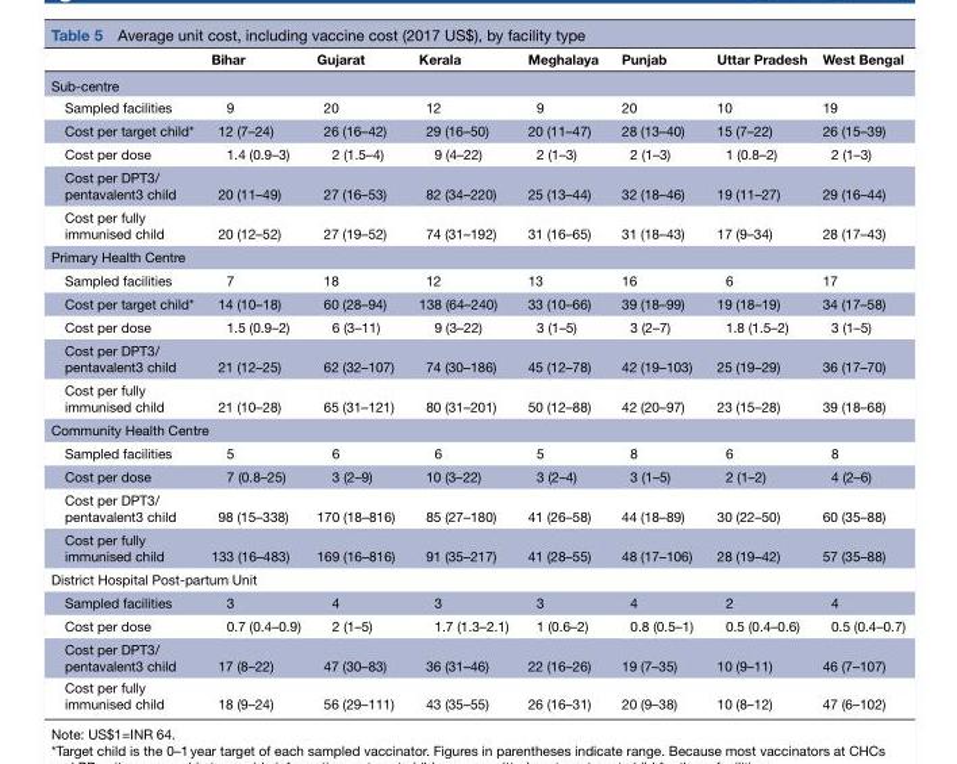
<table><thead><tr><td></td><td>Bihar</td><td>Gujarat</td><td>Kerala</td><td>Meghalaya</td><td>Punjab</td><td>Uttar Pradesh</td><td>West Bengal</td></tr></thead><tbody><tr><td colspan="8">Sub-centre</td></tr><tr><td>Sampled facilities</td><td>9</td><td>20</td><td>12</td><td>9</td><td>20</td><td>10</td><td>19</td></tr><tr><td>Cost per target child*</td><td>12 (7–24)</td><td>26 (16–42)</td><td>29 (16–50)</td><td>20 (11–47)</td><td>28 (13–40)</td><td>15 (7–22)</td><td>26 (15–39)</td></tr><tr><td>Cost per dose</td><td>1.4 (0.9–3)</td><td>2 (1.5–4)</td><td>9 (4–22)</td><td>2 (1–3)</td><td>2 (1–3)</td><td>1 (0.8–2)</td><td>2 (1–3)</td></tr><tr><td>Cost per DPT3/ pentavalent3 child</td><td>20 (11–49)</td><td>27 (16–53)</td><td>82 (34–220)</td><td>25 (13–44)</td><td>32 (18–46)</td><td>19 (11–27)</td><td>29 (16–44)</td></tr><tr><td>Cost per fully immunised child</td><td>20 (12–52)</td><td>27 (19–52)</td><td>74 (31–192)</td><td>31 (16–65)</td><td>31 (18–43)</td><td>17 (9–34)</td><td>28 (17–43)</td></tr><tr><td colspan="8">Primary Health Centre</td></tr><tr><td>Sampled facilities</td><td>7</td><td>18</td><td>12</td><td>13</td><td>16</td><td>6</td><td>17</td></tr><tr><td>Cost per target child*</td><td>14 (10–18)</td><td>60 (28–94)</td><td>138 (64–240)</td><td>33 (10–66)</td><td>39 (18–99)</td><td>19 (18–19)</td><td>34 (17–58)</td></tr><tr><td>Cost per dose</td><td>1.5 (0.9–2)</td><td>6 (3–11)</td><td>9 (3–22)</td><td>3 (1–5)</td><td>3 (2–7)</td><td>1.8 (1.5–2)</td><td>3 (1–5)</td></tr><tr><td>Cost per DPT3/ pentavalent3 child</td><td>21 (12–25)</td><td>62 (32–107)</td><td>74 (30–186)</td><td>45 (12–78)</td><td>42 (19–103)</td><td>25 (19–29)</td><td>36 (17–70)</td></tr><tr><td>Cost per fully immunised child</td><td>21 (10–28)</td><td>65 (31–121)</td><td>80 (31–201)</td><td>50 (12–88)</td><td>42 (20–97)</td><td>23 (15–28)</td><td>39 (18–68)</td></tr><tr><td colspan="8">Community Health Centre</td></tr><tr><td>Sampled facilities</td><td>5</td><td>6</td><td>6</td><td>5</td><td>8</td><td>6</td><td>8</td></tr><tr><td>Cost per dose</td><td>7 (0.8–25)</td><td>3 (2–9)</td><td>10 (3–22)</td><td>3 (2–4)</td><td>3 (1–5)</td><td>2 (1–2)</td><td>4 (2–6)</td></tr><tr><td>Cost per DPT3/ pentavalent3 child</td><td>98 (15–338)</td><td>170 (18–816)</td><td>85 (27–180)</td><td>41 (26–58)</td><td>44 (18–89)</td><td>30 (22–50)</td><td>60 (35–88)</td></tr><tr><td>Cost per fully immunised child</td><td>133 (16–483)</td><td>169 (16–816)</td><td>91 (35–217)</td><td>41 (28–55)</td><td>48 (17–106)</td><td>28 (19–42)</td><td>57 (35–88)</td></tr><tr><td colspan="8">District Hospital Post-partum Unit</td></tr><tr><td>Sampled facilities</td><td>3</td><td>4</td><td>3</td><td>3</td><td>4</td><td>2</td><td>4</td></tr><tr><td>Cost per dose</td><td>0.7 (0.4–0.9)</td><td>2 (1–5)</td><td>1.7 (1.3–2.1)</td><td>1 (0.6–2)</td><td>0.8 (0.5–1)</td><td>0.5 (0.4–0.6)</td><td>0.5 (0.4–0.7)</td></tr><tr><td>Cost per DPT3/ pentavalent3 child</td><td>17 (8–22)</td><td>47 (30–83)</td><td>36 (31–46)</td><td>22 (16–26)</td><td>19 (7–35)</td><td>10 (9–11)</td><td>46 (7–107)</td></tr><tr><td>Cost per fully immunised child</td><td>18 (9–24)</td><td>56 (29–111)</td><td>43 (35–55)</td><td>26 (16–31)</td><td>20 (9–38)</td><td>10 (8–12)</td><td>47 (6–102)</td></tr></tbody></table>